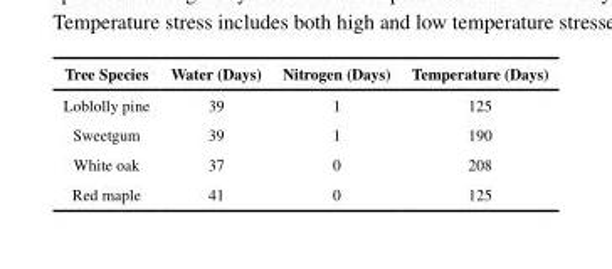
<table><thead><tr><td>Tree Species</td><td>Water (Days)</td><td>Nitrogen (Days)</td><td>Temperature (Days)</td></tr></thead><tbody><tr><td>Loblolly pine</td><td>39</td><td>1</td><td>125</td></tr><tr><td>Sweetgum</td><td>39</td><td>1</td><td>190</td></tr><tr><td>White oak</td><td>37</td><td>0</td><td>208</td></tr><tr><td>Red maple</td><td>41</td><td>0</td><td>125</td></tr></tbody></table>